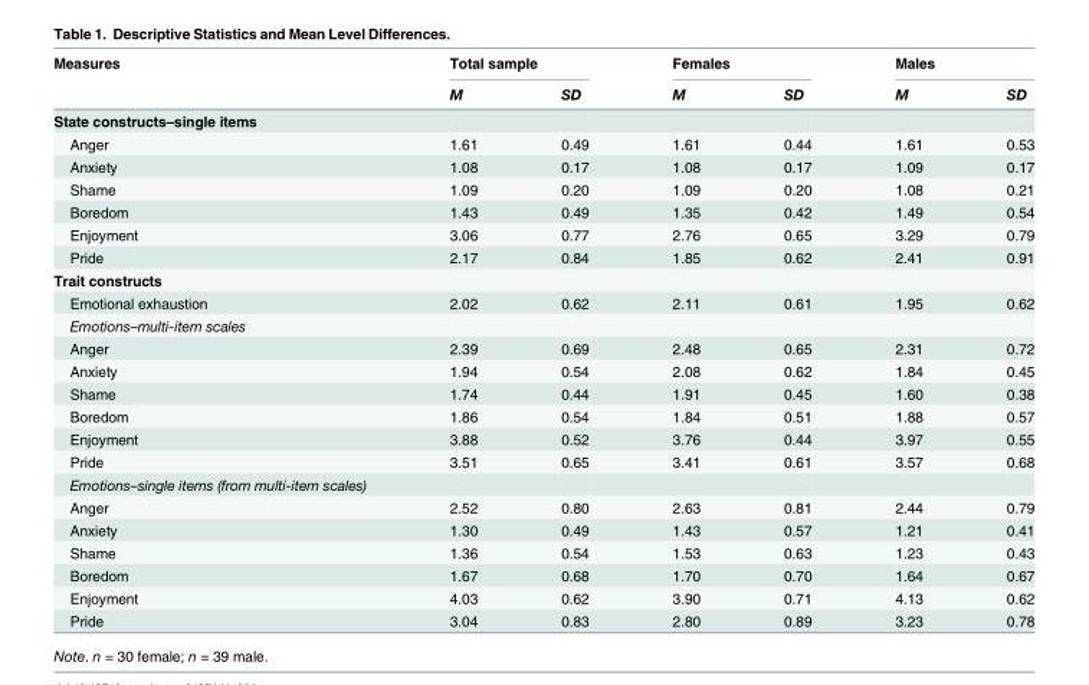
<table><thead><tr><td rowspan="2">Measures</td><td colspan="2">Total sample</td><td colspan="2">Females</td><td colspan="2">Males</td></tr><tr><td>M</td><td>SD</td><td>M</td><td>SD</td><td>M</td><td>SD</td></tr></thead><tbody><tr><td colspan="7">State constructs–single items</td></tr><tr><td>Anger</td><td>1.61</td><td>0.49</td><td>1.61</td><td>0.44</td><td>1.61</td><td>0.53</td></tr><tr><td>Anxiety</td><td>1.08</td><td>0.17</td><td>1.08</td><td>0.17</td><td>1.09</td><td>0.17</td></tr><tr><td>Shame</td><td>1.09</td><td>0.20</td><td>1.09</td><td>0.20</td><td>1.08</td><td>0.21</td></tr><tr><td>Boredom</td><td>1.43</td><td>0.49</td><td>1.35</td><td>0.42</td><td>1.49</td><td>0.54</td></tr><tr><td>Enjoyment</td><td>3.06</td><td>0.77</td><td>2.76</td><td>0.65</td><td>3.29</td><td>0.79</td></tr><tr><td>Pride</td><td>2.17</td><td>0.84</td><td>1.85</td><td>0.62</td><td>2.41</td><td>0.91</td></tr><tr><td colspan="7">Trait constructs</td></tr><tr><td>Emotional exhaustion</td><td>2.02</td><td>0.62</td><td>2.11</td><td>0.61</td><td>1.95</td><td>0.62</td></tr><tr><td colspan="7">Emotions–multi-item scales</td></tr><tr><td>Anger</td><td>2.39</td><td>0.69</td><td>2.48</td><td>0.65</td><td>2.31</td><td>0.72</td></tr><tr><td>Anxiety</td><td>1.94</td><td>0.54</td><td>2.08</td><td>0.62</td><td>1.84</td><td>0.45</td></tr><tr><td>Shame</td><td>1.74</td><td>0.44</td><td>1.91</td><td>0.45</td><td>1.60</td><td>0.38</td></tr><tr><td>Boredom</td><td>1.86</td><td>0.54</td><td>1.84</td><td>0.51</td><td>1.88</td><td>0.57</td></tr><tr><td>Enjoyment</td><td>3.88</td><td>0.52</td><td>3.76</td><td>0.44</td><td>3.97</td><td>0.55</td></tr><tr><td>Pride</td><td>3.51</td><td>0.65</td><td>3.41</td><td>0.61</td><td>3.57</td><td>0.68</td></tr><tr><td colspan="7">Emotions–single items (from multi-item scales)</td></tr><tr><td>Anger</td><td>2.52</td><td>0.80</td><td>2.63</td><td>0.81</td><td>2.44</td><td>0.79</td></tr><tr><td>Anxiety</td><td>1.30</td><td>0.49</td><td>1.43</td><td>0.57</td><td>1.21</td><td>0.41</td></tr><tr><td>Shame</td><td>1.36</td><td>0.54</td><td>1.53</td><td>0.63</td><td>1.23</td><td>0.43</td></tr><tr><td>Boredom</td><td>1.67</td><td>0.68</td><td>1.70</td><td>0.70</td><td>1.64</td><td>0.67</td></tr><tr><td>Enjoyment</td><td>4.03</td><td>0.62</td><td>3.90</td><td>0.71</td><td>4.13</td><td>0.62</td></tr><tr><td>Pride</td><td>3.04</td><td>0.83</td><td>2.80</td><td>0.89</td><td>3.23</td><td>0.78</td></tr></tbody></table>